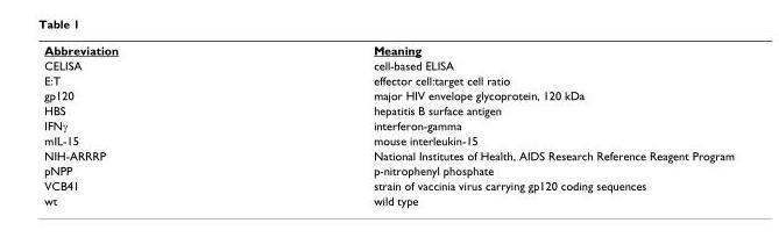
<table><tbody><tr><td>Abbreviation</td><td>Meaning</td></tr><tr><td>CELISA</td><td>cell-based ELISA</td></tr><tr><td>E:T</td><td>effector cell:target cell ratio</td></tr><tr><td>gp120</td><td>major HIV envelope glycoprotein, 120 kDa</td></tr><tr><td>HBS</td><td>hepatitis B surface antigen</td></tr><tr><td>IFNγ</td><td>interferon-gamma</td></tr><tr><td>mIL-15</td><td>mouse interleukin-15</td></tr><tr><td>NIH-ARRRP</td><td>National Institutes of Health, AIDS Research Reference Reagent Program</td></tr><tr><td>pNPP</td><td>p-nitrophenyl phosphate</td></tr><tr><td>VCB41</td><td>strain of vaccinia virus carrying gp120 coding sequences</td></tr><tr><td>wt</td><td>wild type</td></tr></tbody></table>